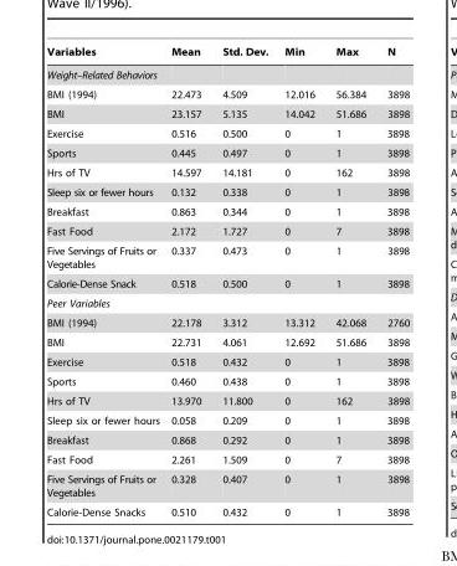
<table><thead><tr><td>Variables</td><td>Mean</td><td>Std. Dev.</td><td>Min</td><td>Max</td><td>N</td></tr></thead><tbody><tr><td colspan="6">Weight–Related Behaviors</td></tr><tr><td>BMI (1994)</td><td>22.473</td><td>4.509</td><td>12.016</td><td>56.384</td><td>3898</td></tr><tr><td>BMI</td><td>23.157</td><td>5.135</td><td>14.042</td><td>51.686</td><td>3898</td></tr><tr><td>Exercise</td><td>0.516</td><td>0.500</td><td>0</td><td>1</td><td>3898</td></tr><tr><td>Sports</td><td>0.445</td><td>0.497</td><td>0</td><td>1</td><td>3898</td></tr><tr><td>Hrs of TV</td><td>14.597</td><td>14.181</td><td>0</td><td>162</td><td>3898</td></tr><tr><td>Sleep six or fewer hours</td><td>0.132</td><td>0.338</td><td>0</td><td>1</td><td>3898</td></tr><tr><td>Breakfast</td><td>0.863</td><td>0.344</td><td>0</td><td>1</td><td>3898</td></tr><tr><td>Fast Food</td><td>2.172</td><td>1.727</td><td>0</td><td>7</td><td>3898</td></tr><tr><td>Five Servings of Fruits or Vegetables</td><td>0.337</td><td>0.473</td><td>0</td><td>1</td><td>3898</td></tr><tr><td>Calorie-Dense Snack</td><td>0.518</td><td>0.500</td><td>0</td><td>1</td><td>3898</td></tr><tr><td colspan="6">Peer Variables</td></tr><tr><td>BMI (1994)</td><td>22.178</td><td>3.312</td><td>13.312</td><td>42.068</td><td>2760</td></tr><tr><td>BMI</td><td>22.731</td><td>4.061</td><td>12.692</td><td>51.686</td><td>3898</td></tr><tr><td>Exercise</td><td>0.518</td><td>0.432</td><td>0</td><td>1</td><td>3898</td></tr><tr><td>Sports</td><td>0.460</td><td>0.438</td><td>0</td><td>1</td><td>3898</td></tr><tr><td>Hrs of TV</td><td>13.970</td><td>11.800</td><td>0</td><td>162</td><td>3898</td></tr><tr><td>Sleep six or fewer hours</td><td>0.058</td><td>0.209</td><td>0</td><td>1</td><td>3898</td></tr><tr><td>Breakfast</td><td>0.868</td><td>0.292</td><td>0</td><td>1</td><td>3898</td></tr><tr><td>Fast Food</td><td>2.261</td><td>1.509</td><td>0</td><td>7</td><td>3898</td></tr><tr><td>Five Servings of Fruits or Vegetables</td><td>0.328</td><td>0.407</td><td>0</td><td>1</td><td>3898</td></tr><tr><td>Calorie-Dense Snacks</td><td>0.510</td><td>0.432</td><td>0</td><td>1</td><td>3898</td></tr></tbody></table>